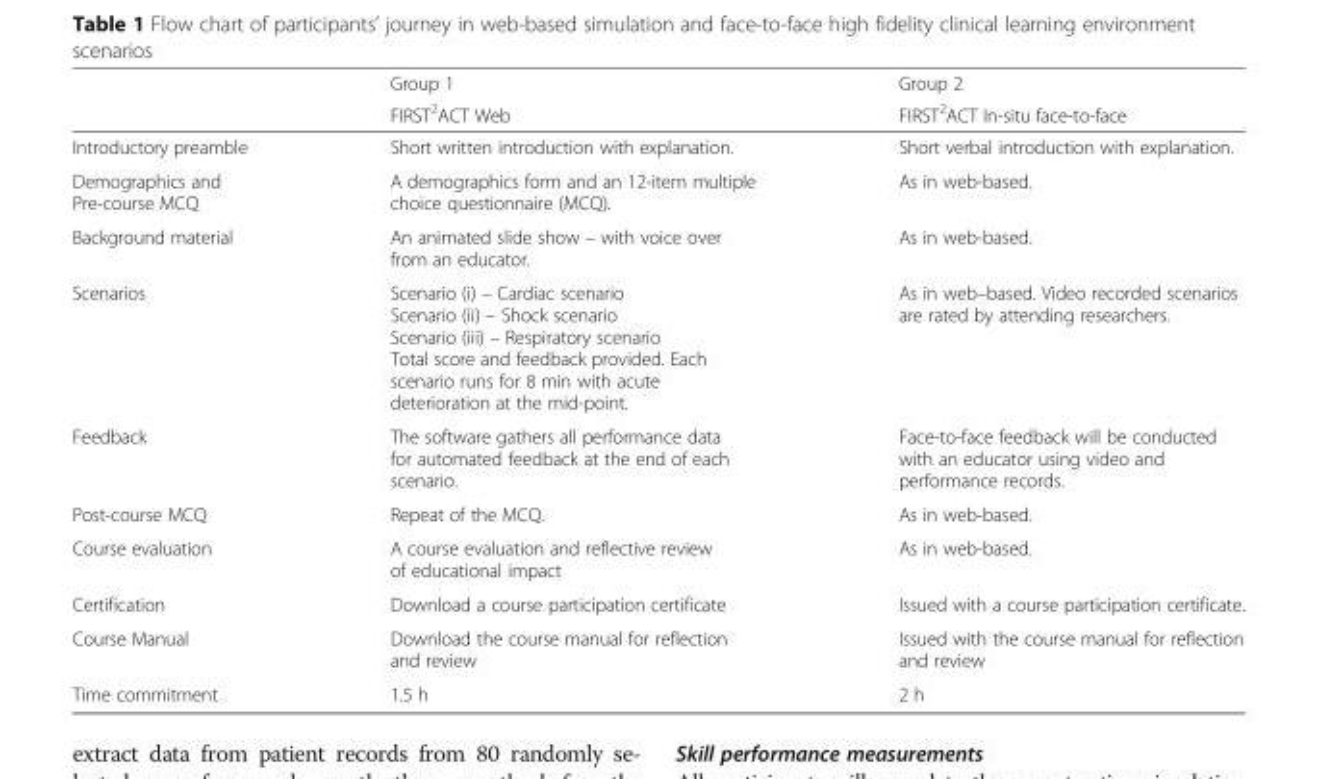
<table><thead><tr><td rowspan="2"></td><td rowspan="2">Group 1 FIRST<sup>2</sup>ACT Web</td><td rowspan="2">Group 2 FIRST<sup>2</sup>ACT In-situ face-to-face</td></tr><tr></tr></thead><tbody><tr><td>Introductory preamble</td><td>Short written introduction with explanation.</td><td>Short verbal introduction with explanation.</td></tr><tr><td>Demographics and Pre-course MCQ</td><td>A demographics form and an 12-item multiple choice questionnaire (MCQ).</td><td>As in web-based.</td></tr><tr><td>Background material</td><td>An animated slide show – with voice over from an educator.</td><td>As in web-based.</td></tr><tr><td>Scenarios</td><td>Scenario (i) – Cardiac scenario Scenario (ii) – Shock scenario Scenario (iii) – Respiratory scenario Total score and feedback provided. Each scenario runs for 8 min with acute deterioration at the mid-point.</td><td>As in web–based. Video recorded scenarios are rated by attending researchers.</td></tr><tr><td>Feedback</td><td>The software gathers all performance data for automated feedback at the end of each scenario.</td><td>Face-to-face feedback will be conducted with an educator using video and performance records.</td></tr><tr><td>Post-course MCQ</td><td>Repeat of the MCQ.</td><td>As in web-based.</td></tr><tr><td>Course evaluation</td><td>A course evaluation and reflective review of educational impact</td><td>As in web-based.</td></tr><tr><td>Certification</td><td>Download a course participation certificate</td><td>Issued with a course participation certificate.</td></tr><tr><td>Course Manual</td><td>Download the course manual for reflection and review</td><td>Issued with the course manual for reflection and review</td></tr><tr><td>Time commitment</td><td>1.5 h</td><td>2 h</td></tr></tbody></table>